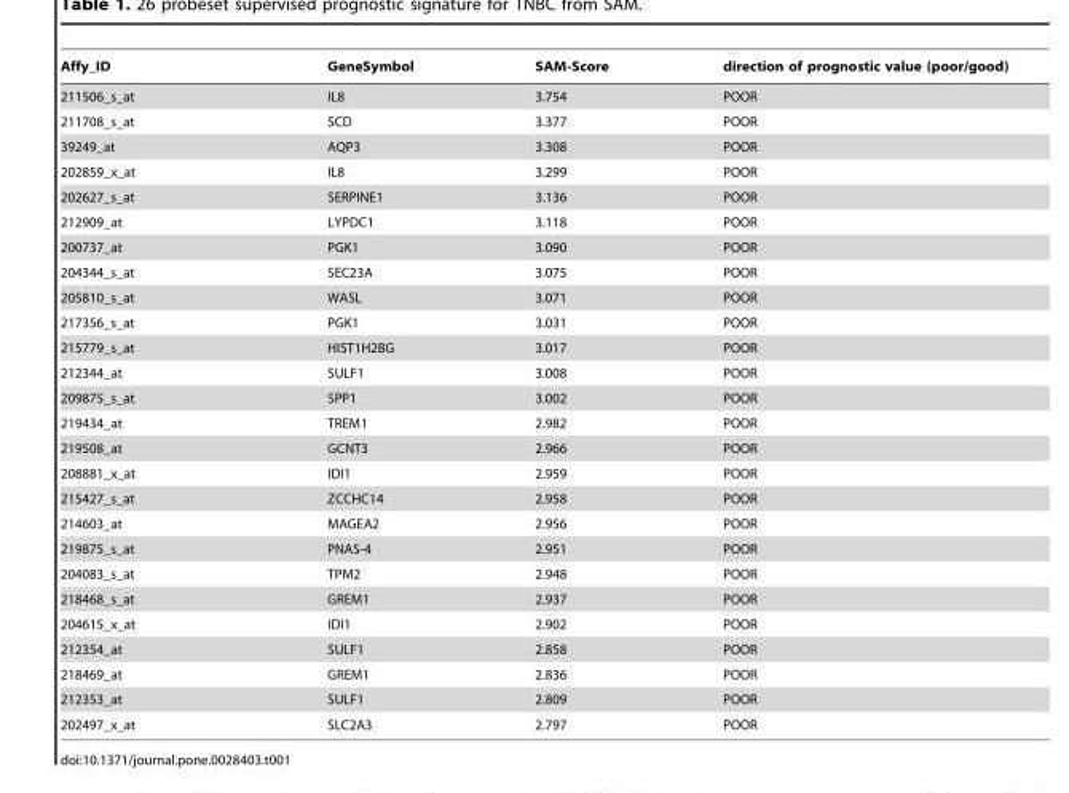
<table><thead><tr><td>Affy_ID</td><td>GeneSymbol</td><td>SAM-Score</td><td>direction of prognostic value (poor/good)</td></tr></thead><tbody><tr><td>211506_s_at</td><td>IL8</td><td>3.754</td><td>POOR</td></tr><tr><td>211708_s_at</td><td>SCD</td><td>3.377</td><td>POOR</td></tr><tr><td>39249_at</td><td>AQP3</td><td>3.308</td><td>POOR</td></tr><tr><td>202859_x_at</td><td>IL8</td><td>3.299</td><td>POOR</td></tr><tr><td>202627_s_at</td><td>SERPINE1</td><td>3.136</td><td>POOR</td></tr><tr><td>212909_at</td><td>LYPDC1</td><td>3.118</td><td>POOR</td></tr><tr><td>200737_at</td><td>PGK1</td><td>3.090</td><td>POOR</td></tr><tr><td>204344_s_at</td><td>SEC23A</td><td>3.075</td><td>POOR</td></tr><tr><td>205810_s_at</td><td>WASL</td><td>3.071</td><td>POOR</td></tr><tr><td>217356_s_at</td><td>PGK1</td><td>3.031</td><td>POOR</td></tr><tr><td>215779_s_at</td><td>HIST1H2BG</td><td>3.017</td><td>POOR</td></tr><tr><td>212344_at</td><td>SULF1</td><td>3.008</td><td>POOR</td></tr><tr><td>209875_s_at</td><td>SPP1</td><td>3.002</td><td>POOR</td></tr><tr><td>219434_at</td><td>TREM1</td><td>2.982</td><td>POOR</td></tr><tr><td>219508_at</td><td>GCNT3</td><td>2.966</td><td>POOR</td></tr><tr><td>208881_x_at</td><td>IDI1</td><td>2.959</td><td>POOR</td></tr><tr><td>215427_s_at</td><td>ZCCHC14</td><td>2.958</td><td>POOR</td></tr><tr><td>214603_at</td><td>MAGEA2</td><td>2.956</td><td>POOR</td></tr><tr><td>219875_s_at</td><td>PNAS-4</td><td>2.951</td><td>POOR</td></tr><tr><td>204083_s_at</td><td>TPM2</td><td>2.948</td><td>POOR</td></tr><tr><td>218468_s_at</td><td>GREM1</td><td>2.937</td><td>POOR</td></tr><tr><td>204615_x_at</td><td>IDI1</td><td>2.902</td><td>POOR</td></tr><tr><td>212354_at</td><td>SULF1</td><td>2.858</td><td>POOR</td></tr><tr><td>218469_at</td><td>GREM1</td><td>2.836</td><td>POOR</td></tr><tr><td>212353_at</td><td>SULF1</td><td>2.809</td><td>POOR</td></tr><tr><td>202497_x_at</td><td>SLC2A3</td><td>2.797</td><td>POOR</td></tr></tbody></table>